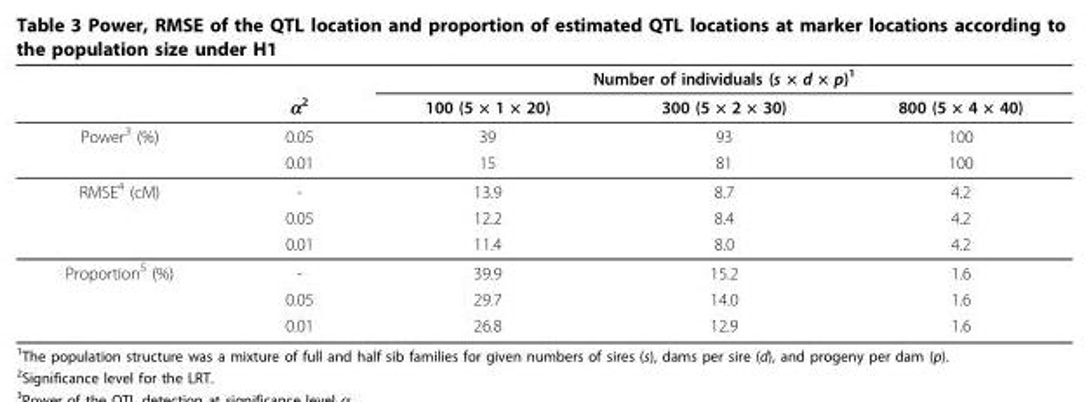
<table><thead><tr><td rowspan="2"></td><td rowspan="2">α<sup>2</sup></td><td colspan="3">Number of individuals (s × d × p)<sup>1</sup></td></tr><tr><td>100 (5 × 1 × 20)</td><td>300 (5 × 2 × 30)</td><td>800 (5 × 4 × 40)</td></tr></thead><tbody><tr><td rowspan="2">Power<sup>3</sup> (%)</td><td>0.05</td><td>39</td><td>93</td><td>100</td></tr><tr><td>0.01</td><td>15</td><td>81</td><td>100</td></tr><tr><td rowspan="3">RMSE<sup>4</sup> (cM)</td><td>-</td><td>13.9</td><td>8.7</td><td>4.2</td></tr><tr><td>0.05</td><td>12.2</td><td>8.4</td><td>4.2</td></tr><tr><td>0.01</td><td>11.4</td><td>8.0</td><td>4.2</td></tr><tr><td rowspan="3">Proportion<sup>5</sup> (%)</td><td>-</td><td>39.9</td><td>15.2</td><td>1.6</td></tr><tr><td>0.05</td><td>29.7</td><td>14.0</td><td>1.6</td></tr><tr><td>0.01</td><td>26.8</td><td>12.9</td><td>1.6</td></tr></tbody></table>